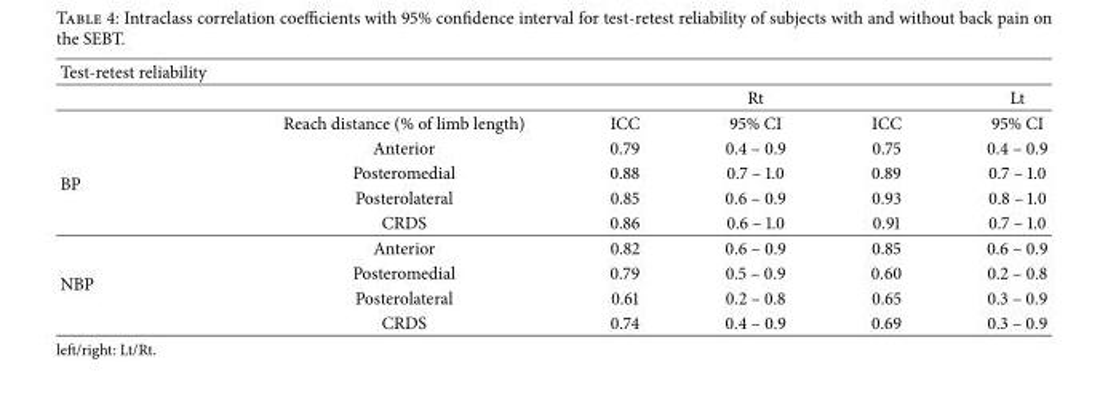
<table><tbody><tr><td colspan="6">Test-retest reliability</td></tr><tr><td></td><td></td><td></td><td>Rt</td><td></td><td>Lt</td></tr><tr><td></td><td>Reach distance (% of limb length)</td><td>ICC</td><td>95% CI</td><td>ICC</td><td>95% CI</td></tr><tr><td rowspan="4">BP</td><td>Anterior</td><td>0.79</td><td>0.4 – 0.9</td><td>0.75</td><td>0.4 – 0.9</td></tr><tr><td>Posteromedial</td><td>0.88</td><td>0.7 – 1.0</td><td>0.89</td><td>0.7 – 1.0</td></tr><tr><td>Posterolateral</td><td>0.85</td><td>0.6 – 0.9</td><td>0.93</td><td>0.8 – 1.0</td></tr><tr><td>CRDS</td><td>0.86</td><td>0.6 – 1.0</td><td>0.91</td><td>0.7 – 1.0</td></tr><tr><td rowspan="4">NBP</td><td>Anterior</td><td>0.82</td><td>0.6 – 0.9</td><td>0.85</td><td>0.6 – 0.9</td></tr><tr><td>Posteromedial</td><td>0.79</td><td>0.5 – 0.9</td><td>0.60</td><td>0.2 – 0.8</td></tr><tr><td>Posterolateral</td><td>0.61</td><td>0.2 – 0.8</td><td>0.65</td><td>0.3 – 0.9</td></tr><tr><td>CRDS</td><td>0.74</td><td>0.4 – 0.9</td><td>0.69</td><td>0.3 – 0.9</td></tr></tbody></table>